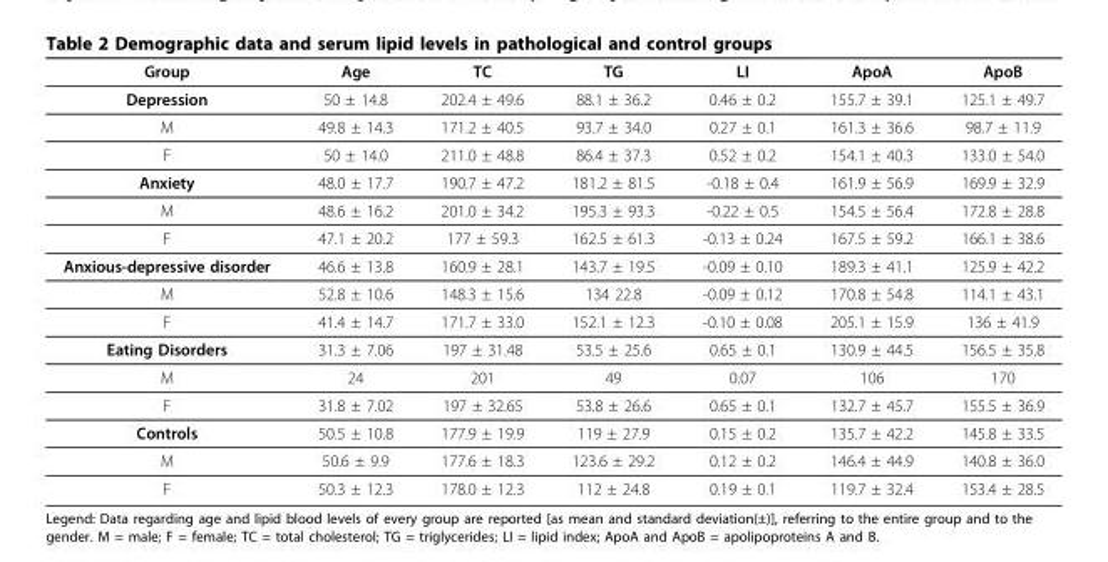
<table><thead><tr><td>Group</td><td>Age</td><td>TC</td><td>TG</td><td>LI</td><td>ApoA</td><td>ApoB</td></tr></thead><tbody><tr><td>Depression</td><td>50 ± 14.8</td><td>202.4 ± 49.6</td><td>88.1 ± 36.2</td><td>0.46 ± 0.2</td><td>155.7 ± 39.1</td><td>125.1 ± 49.7</td></tr><tr><td>M</td><td>49.8 ± 14.3</td><td>171.2 ± 40.5</td><td>93.7 ± 34.0</td><td>0.27 ± 0.1</td><td>161.3 ± 36.6</td><td>98.7 ± 11.9</td></tr><tr><td>F</td><td>50 ± 14.0</td><td>211.0 ± 48.8</td><td>86.4 ± 37.3</td><td>0.52 ± 0.2</td><td>154.1 ± 40.3</td><td>133.0 ± 54.0</td></tr><tr><td>Anxiety</td><td>48.0 ± 17.7</td><td>190.7 ± 47.2</td><td>181.2 ± 81.5</td><td>-0.18 ± 0.4</td><td>161.9 ± 56.9</td><td>169.9 ± 32.9</td></tr><tr><td>M</td><td>48.6 ± 16.2</td><td>201.0 ± 34.2</td><td>195.3 ± 93.3</td><td>-0.22 ± 0.5</td><td>154.5 ± 56.4</td><td>172.8 ± 28.8</td></tr><tr><td>F</td><td>47.1 ± 20.2</td><td>177 ± 59.3</td><td>162.5 ± 61.3</td><td>-0.13 ± 0.24</td><td>167.5 ± 59.2</td><td>166.1 ± 38.6</td></tr><tr><td>Anxious-depressive disorder</td><td>46.6 ± 13.8</td><td>160.9 ± 28.1</td><td>143.7 ± 19.5</td><td>-0.09 ± 0.10</td><td>189.3 ± 41.1</td><td>125.9 ± 42.2</td></tr><tr><td>M</td><td>52.8 ± 10.6</td><td>148.3 ± 15.6</td><td>134 22.8</td><td>-0.09 ± 0.12</td><td>170.8 ± 54.8</td><td>114.1 ± 43.1</td></tr><tr><td>F</td><td>41.4 ± 14.7</td><td>171.7 ± 33.0</td><td>152.1 ± 12.3</td><td>-0.10 ± 0.08</td><td>205.1 ± 15.9</td><td>136 ± 41.9</td></tr><tr><td>Eating Disorders</td><td>31.3 ± 7.06</td><td>197 ± 31.48</td><td>53.5 ± 25.6</td><td>0.65 ± 0.1</td><td>130.9 ± 44.5</td><td>156.5 ± 35.8</td></tr><tr><td>M</td><td>24</td><td>201</td><td>49</td><td>0.07</td><td>106</td><td>170</td></tr><tr><td>F</td><td>31.8 ± 7.02</td><td>197 ± 32.65</td><td>53.8 ± 26.6</td><td>0.65 ± 0.1</td><td>132.7 ± 45.7</td><td>155.5 ± 36.9</td></tr><tr><td>Controls</td><td>50.5 ± 10.8</td><td>177.9 ± 19.9</td><td>119 ± 27.9</td><td>0.15 ± 0.2</td><td>135.7 ± 42.2</td><td>145.8 ± 33.5</td></tr><tr><td>M</td><td>50.6 ± 9.9</td><td>177.6 ± 18.3</td><td>123.6 ± 29.2</td><td>0.12 ± 0.2</td><td>146.4 ± 44.9</td><td>140.8 ± 36.0</td></tr><tr><td>F</td><td>50.3 ± 12.3</td><td>178.0 ± 12.3</td><td>112 ± 24.8</td><td>0.19 ± 0.1</td><td>119.7 ± 32.4</td><td>153.4 ± 28.5</td></tr></tbody></table>